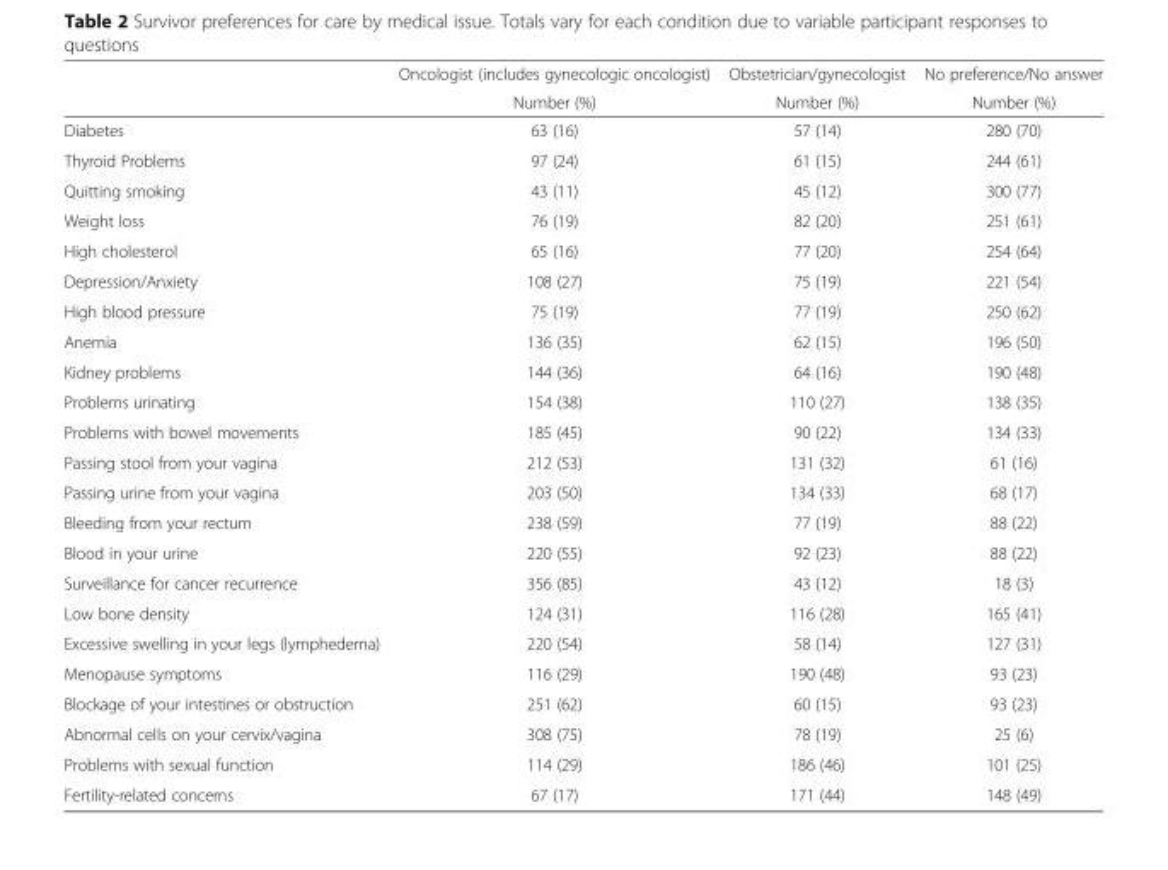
<table><thead><tr><td rowspan="2"></td><td rowspan="2">Oncologist (includes gynecologic oncologist) Number (%)</td><td rowspan="2">Obstetrician/gynecologist Number (%)</td><td rowspan="2">No preference/No answer Number (%)</td></tr><tr></tr></thead><tbody><tr><td>Diabetes</td><td>63 (16)</td><td>57 (14)</td><td>280 (70)</td></tr><tr><td>Thyroid Problems</td><td>97 (24)</td><td>61 (15)</td><td>244 (61)</td></tr><tr><td>Quitting smoking</td><td>43 (11)</td><td>45 (12)</td><td>300 (77)</td></tr><tr><td>Weight loss</td><td>76 (19)</td><td>82 (20)</td><td>251 (61)</td></tr><tr><td>High cholesterol</td><td>65 (16)</td><td>77 (20)</td><td>254 (64)</td></tr><tr><td>Depression/Anxiety</td><td>108 (27)</td><td>75 (19)</td><td>221 (54)</td></tr><tr><td>High blood pressure</td><td>75 (19)</td><td>77 (19)</td><td>250 (62)</td></tr><tr><td>Anemia</td><td>136 (35)</td><td>62 (15)</td><td>196 (50)</td></tr><tr><td>Kidney problems</td><td>144 (36)</td><td>64 (16)</td><td>190 (48)</td></tr><tr><td>Problems urinating</td><td>154 (38)</td><td>110 (27)</td><td>138 (35)</td></tr><tr><td>Problems with bowel movements</td><td>185 (45)</td><td>90 (22)</td><td>134 (33)</td></tr><tr><td>Passing stool from your vagina</td><td>212 (53)</td><td>131 (32)</td><td>61 (16)</td></tr><tr><td>Passing urine from your vagina</td><td>203 (50)</td><td>134 (33)</td><td>68 (17)</td></tr><tr><td>Bleeding from your rectum</td><td>238 (59)</td><td>77 (19)</td><td>88 (22)</td></tr><tr><td>Blood in your urine</td><td>220 (55)</td><td>92 (23)</td><td>88 (22)</td></tr><tr><td>Surveillance for cancer recurrence</td><td>356 (85)</td><td>43 (12)</td><td>18 (3)</td></tr><tr><td>Low bone density</td><td>124 (31)</td><td>116 (28)</td><td>165 (41)</td></tr><tr><td>Excessive swelling in your legs (lymphedema)</td><td>220 (54)</td><td>58 (14)</td><td>127 (31)</td></tr><tr><td>Menopause symptoms</td><td>116 (29)</td><td>190 (48)</td><td>93 (23)</td></tr><tr><td>Blockage of your intestines or obstruction</td><td>251 (62)</td><td>60 (15)</td><td>93 (23)</td></tr><tr><td>Abnormal cells on your cervix/vagina</td><td>308 (75)</td><td>78 (19)</td><td>25 (6)</td></tr><tr><td>Problems with sexual function</td><td>114 (29)</td><td>186 (46)</td><td>101 (25)</td></tr><tr><td>Fertility-related concerns</td><td>67 (17)</td><td>171 (44)</td><td>148 (49)</td></tr></tbody></table>